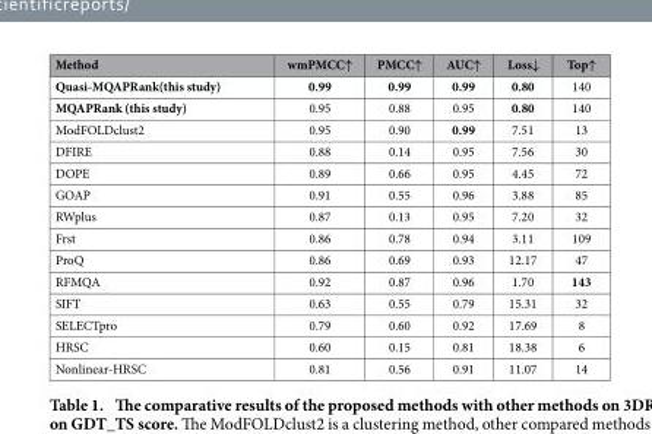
<table><thead><tr><td>Method</td><td>wmPMCC↑</td><td>PMCC↑</td><td>AUC↑</td><td>Loss↓</td><td>Top↑</td></tr></thead><tbody><tr><td>Quasi-MQAPRank(this study)</td><td>0.99</td><td>0.99</td><td>0.99</td><td>0.80</td><td>140</td></tr><tr><td>MQAPRank (this study)</td><td>0.95</td><td>0.88</td><td>0.95</td><td>0.80</td><td>140</td></tr><tr><td>ModFOLDclust2</td><td>0.95</td><td>0.90</td><td>0.99</td><td>7.51</td><td>13</td></tr><tr><td>DFIRE</td><td>0.88</td><td>0.14</td><td>0.95</td><td>7.56</td><td>30</td></tr><tr><td>DOPE</td><td>0.89</td><td>0.66</td><td>0.95</td><td>4.45</td><td>72</td></tr><tr><td>GOAP</td><td>0.91</td><td>0.55</td><td>0.96</td><td>3.88</td><td>85</td></tr><tr><td>RWplus</td><td>0.87</td><td>0.13</td><td>0.95</td><td>7.20</td><td>32</td></tr><tr><td>Frst</td><td>0.86</td><td>0.78</td><td>0.94</td><td>3.11</td><td>109</td></tr><tr><td>ProQ</td><td>0.86</td><td>0.69</td><td>0.93</td><td>12.17</td><td>47</td></tr><tr><td>RFMQA</td><td>0.92</td><td>0.87</td><td>0.96</td><td>1.70</td><td>143</td></tr><tr><td>SIFT</td><td>0.63</td><td>0.55</td><td>0.79</td><td>15.31</td><td>32</td></tr><tr><td>SELECTpro</td><td>0.79</td><td>0.60</td><td>0.92</td><td>17.69</td><td>8</td></tr><tr><td>HRSC</td><td>0.60</td><td>0.15</td><td>0.81</td><td>18.38</td><td>6</td></tr><tr><td>Nonlinear-HRSC</td><td>0.81</td><td>0.56</td><td>0.91</td><td>11.07</td><td>14</td></tr></tbody></table>